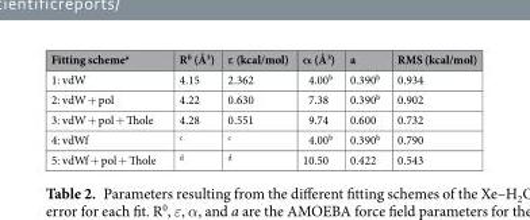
<table><thead><tr><td>Fitting scheme<sup>a</sup></td><td>R<sup>0</sup> (Å<sup>3</sup>)</td><td>ε (kcal/mol)</td><td>α (Å<sup>3</sup>)</td><td>a</td><td>RMS (kcal/mol)</td></tr></thead><tbody><tr><td>1: vdW</td><td>4.15</td><td>2.362</td><td>4.00<sup>b</sup></td><td>0.390<sup>b</sup></td><td>0.934</td></tr><tr><td>2: vdW + pol</td><td>4.22</td><td>0.630</td><td>7.38</td><td>0.390<sup>b</sup></td><td>0.902</td></tr><tr><td>3: vdW + pol + Thole</td><td>4.28</td><td>0.551</td><td>9.74</td><td>0.600</td><td>0.732</td></tr><tr><td>4: vdWf</td><td><sup>c</sup></td><td><sup>c</sup></td><td>4.00<sup>b</sup></td><td>0.390<sup>b</sup></td><td>0.790</td></tr><tr><td>5: vdWf + pol + Thole</td><td><sup>d</sup></td><td><sup>d</sup></td><td>10.50</td><td>0.422</td><td>0.543</td></tr></tbody></table>